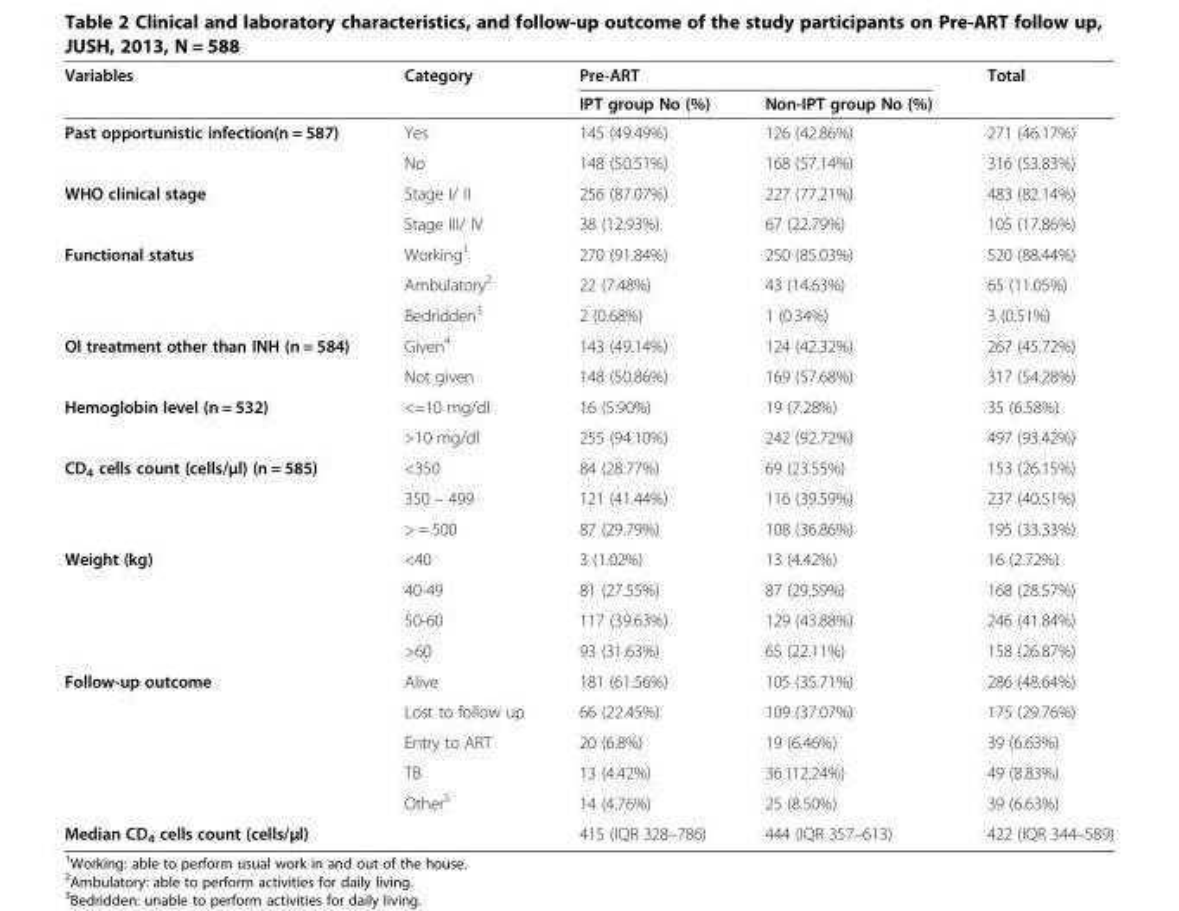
<table><thead><tr><td rowspan="2">Variables</td><td rowspan="2">Category</td><td colspan="2">Pre-ART</td><td rowspan="2">Total</td></tr><tr><td>IPT group No (%)</td><td>Non-IPT group No (%)</td></tr></thead><tbody><tr><td rowspan="2">Past opportunistic infection(n = 587)</td><td>Yes</td><td>145 (49.49%)</td><td>126 (42.86%)</td><td>271 (46.17%)</td></tr><tr><td>No</td><td>148 (50.51%)</td><td>168 (57.14%)</td><td>316 (53.83%)</td></tr><tr><td rowspan="2">WHO clinical stage</td><td>Stage I/ II</td><td>256 (87.07%)</td><td>227 (77.21%)</td><td>483 (82.14%)</td></tr><tr><td>Stage III/ IV</td><td>38 (12.93%)</td><td>67 (22.79%)</td><td>105 (17.86%)</td></tr><tr><td rowspan="3">Functional status</td><td>Working<sup>1</sup></td><td>270 (91.84%)</td><td>250 (85.03%)</td><td>520 (88.44%)</td></tr><tr><td>Ambulatory<sup>2</sup></td><td>22 (7.48%)</td><td>43 (14.63%)</td><td>65 (11.05%)</td></tr><tr><td>Bedridden<sup>3</sup></td><td>2 (0.68%)</td><td>1 (0.34%)</td><td>3 (0.51%)</td></tr><tr><td rowspan="2">OI treatment other than INH (n = 584)</td><td>Given<sup>4</sup></td><td>143 (49.14%)</td><td>124 (42.32%)</td><td>267 (45.72%)</td></tr><tr><td>Not given</td><td>148 (50.86%)</td><td>169 (57.68%)</td><td>317 (54.28%)</td></tr><tr><td rowspan="2">Hemoglobin level (n = 532)</td><td>&lt;=10 mg/dl</td><td>16 (5.90%)</td><td>19 (7.28%)</td><td>35 (6.58%)</td></tr><tr><td>&gt;10 mg/dl</td><td>255 (94.10%)</td><td>242 (92.72%)</td><td>497 (93.42%)</td></tr><tr><td rowspan="3">CD<sub>4</sub> cells count (cells/μl) (n = 585)</td><td>&lt;350</td><td>84 (28.77%)</td><td>69 (23.55%)</td><td>153 (26.15%)</td></tr><tr><td>350 – 499</td><td>121 (41.44%)</td><td>116 (39.59%)</td><td>237 (40.51%)</td></tr><tr><td>&gt; = 500</td><td>87 (29.79%)</td><td>108 (36.86%)</td><td>195 (33.33%)</td></tr><tr><td rowspan="4">Weight (kg)</td><td>&lt;40</td><td>3 (1.02%)</td><td>13 (4.42%)</td><td>16 (2.72%)</td></tr><tr><td>40-49</td><td>81 (27.55%)</td><td>87 (29.59%)</td><td>168 (28.57%)</td></tr><tr><td>50-60</td><td>117 (39.63%)</td><td>129 (43.88%)</td><td>246 (41.84%)</td></tr><tr><td>&gt;60</td><td>93 (31.63%)</td><td>65 (22.11%)</td><td>158 (26.87%)</td></tr><tr><td rowspan="5">Follow-up outcome</td><td>Alive</td><td>181 (61.56%)</td><td>105 (35.71%)</td><td>286 (48.64%)</td></tr><tr><td>Lost to follow up</td><td>66 (22.45%)</td><td>109 (37.07%)</td><td>175 (29.76%)</td></tr><tr><td>Entry to ART</td><td>20 (6.8%)</td><td>19 (6.46%)</td><td>39 (6.63%)</td></tr><tr><td>TB</td><td>13 (4.42%)</td><td>36 (12.24%)</td><td>49 (8.83%)</td></tr><tr><td>Other<sup>5</sup></td><td>14 (4.76%)</td><td>25 (8.50%)</td><td>39 (6.63%)</td></tr><tr><td>Median CD<sub>4</sub> cells count (cells/μl)</td><td></td><td>415 (IQR 328–786)</td><td>444 (IQR 357–613)</td><td>422 (IQR 344–589)</td></tr></tbody></table>